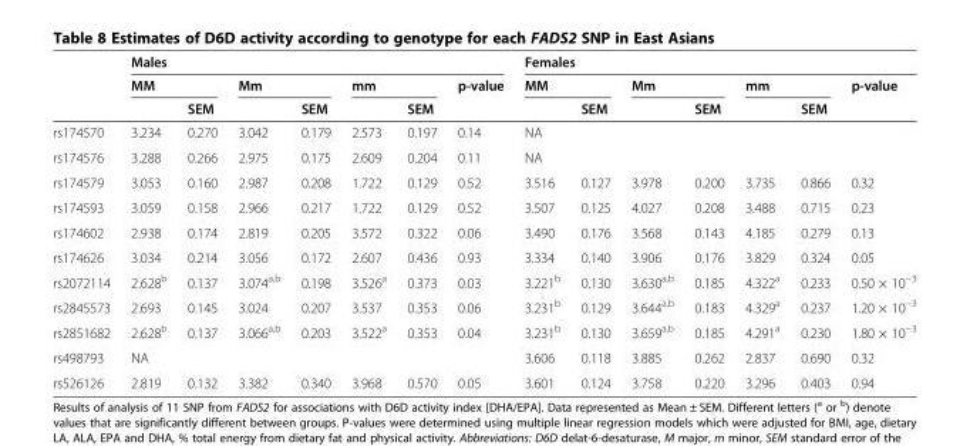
<table><thead><tr><td rowspan="3"></td><td colspan="7">Males</td><td colspan="7">Females</td></tr><tr><td colspan="2">MM</td><td colspan="2">Mm</td><td colspan="2">mm</td><td rowspan="2">p-value</td><td colspan="2">MM</td><td colspan="2">Mm</td><td colspan="2">mm</td><td rowspan="2">p-value</td></tr><tr><td></td><td>SEM</td><td></td><td>SEM</td><td></td><td>SEM</td><td></td><td>SEM</td><td></td><td>SEM</td><td></td><td>SEM</td></tr></thead><tbody><tr><td>rs174570</td><td>3.234</td><td>0.270</td><td>3.042</td><td>0.179</td><td>2.573</td><td>0.197</td><td>0.14</td><td>NA</td><td></td><td></td><td></td><td></td><td></td><td></td></tr><tr><td>rs174576</td><td>3.288</td><td>0.266</td><td>2.975</td><td>0.175</td><td>2.609</td><td>0.204</td><td>0.11</td><td>NA</td><td></td><td></td><td></td><td></td><td></td><td></td></tr><tr><td>rs174579</td><td>3.053</td><td>0.160</td><td>2.987</td><td>0.208</td><td>1.722</td><td>0.129</td><td>0.52</td><td>3.516</td><td>0.127</td><td>3.978</td><td>0.200</td><td>3.735</td><td>0.866</td><td>0.32</td></tr><tr><td>rs174593</td><td>3.059</td><td>0.158</td><td>2.966</td><td>0.217</td><td>1.722</td><td>0.129</td><td>0.52</td><td>3.507</td><td>0.125</td><td>4.027</td><td>0.208</td><td>3.488</td><td>0.715</td><td>0.23</td></tr><tr><td>rs174602</td><td>2.938</td><td>0.174</td><td>2.819</td><td>0.205</td><td>3.572</td><td>0.322</td><td>0.06</td><td>3.490</td><td>0.176</td><td>3.568</td><td>0.143</td><td>4.185</td><td>0.279</td><td>0.13</td></tr><tr><td>rs174626</td><td>3.034</td><td>0.214</td><td>3.056</td><td>0.172</td><td>2.607</td><td>0.436</td><td>0.93</td><td>3.334</td><td>0.140</td><td>3.906</td><td>0.176</td><td>3.829</td><td>0.324</td><td>0.05</td></tr><tr><td>rs2072114</td><td>2.628<sup>b</sup></td><td>0.137</td><td>3.074<sup>a,b</sup></td><td>0.198</td><td>3.526<sup>a</sup></td><td>0.373</td><td>0.03</td><td>3.221<sup>b</sup></td><td>0.130</td><td>3.630<sup>a,b</sup></td><td>0.185</td><td>4.322<sup>a</sup></td><td>0.233</td><td>0.50 × 10<sup>−3</sup></td></tr><tr><td>rs2845573</td><td>2.693</td><td>0.145</td><td>3.024</td><td>0.207</td><td>3.537</td><td>0.353</td><td>0.06</td><td>3.231<sup>b</sup></td><td>0.129</td><td>3.644<sup>a,b</sup></td><td>0.183</td><td>4.329<sup>a</sup></td><td>0.237</td><td>1.20 × 10<sup>−3</sup></td></tr><tr><td>rs2851682</td><td>2.628<sup>b</sup></td><td>0.137</td><td>3.066<sup>a,b</sup></td><td>0.203</td><td>3.522<sup>a</sup></td><td>0.353</td><td>0.04</td><td>3.231<sup>b</sup></td><td>0.130</td><td>3.659<sup>a,b</sup></td><td>0.185</td><td>4.291<sup>a</sup></td><td>0.230</td><td>1.80 × 10<sup>−3</sup></td></tr><tr><td>rs498793</td><td>NA</td><td></td><td></td><td></td><td></td><td></td><td></td><td>3.606</td><td>0.118</td><td>3.885</td><td>0.262</td><td>2.837</td><td>0.690</td><td>0.32</td></tr><tr><td>rs526126</td><td>2.819</td><td>0.132</td><td>3.382</td><td>0.340</td><td>3.968</td><td>0.570</td><td>0.05</td><td>3.601</td><td>0.124</td><td>3.758</td><td>0.220</td><td>3.296</td><td>0.403</td><td>0.94</td></tr></tbody></table>